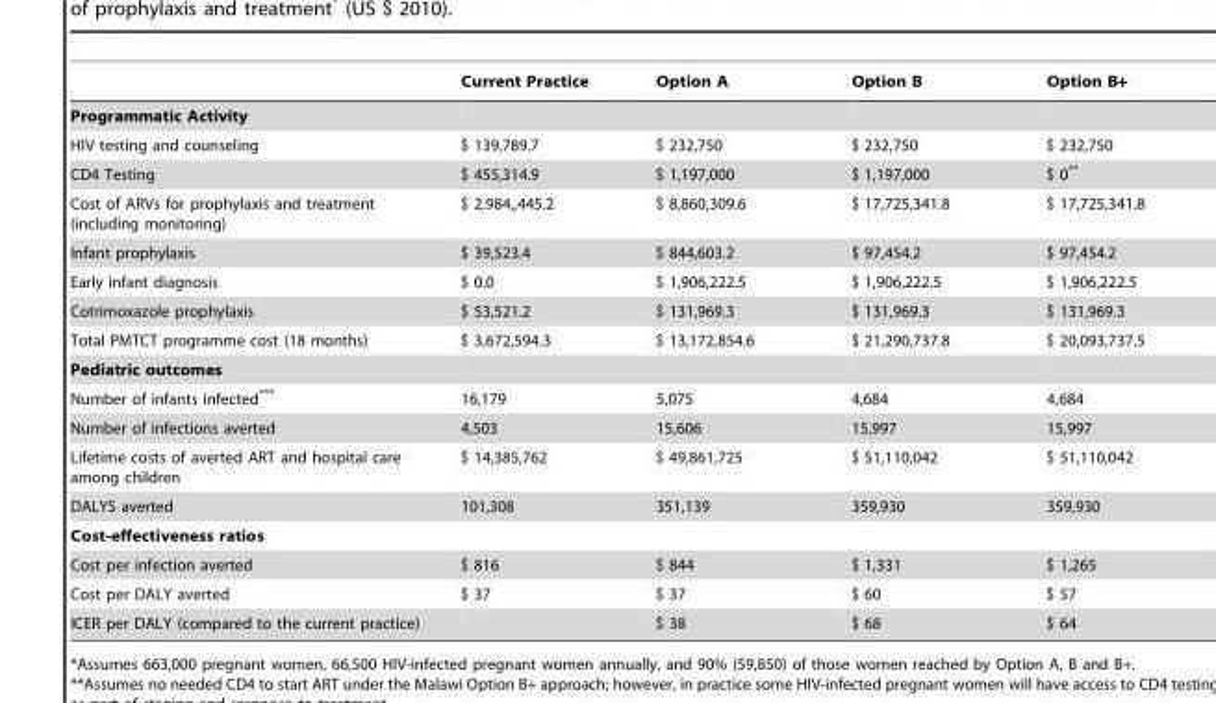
<table><thead><tr><td></td><td>Current Practice</td><td>Option A</td><td>Option B</td><td>Option B+</td></tr></thead><tbody><tr><td colspan="5">Programmatic Activity</td></tr><tr><td>HIV testing and counseling</td><td>$ 139,789.7</td><td>$ 232,750</td><td>$ 232,750</td><td>$ 232,750</td></tr><tr><td>CD4 Testing</td><td>$ 455,314.9</td><td>$ 1,197,000</td><td>$ 1,197,000</td><td>$ 0**</td></tr><tr><td>Cost of ARVs for prophylaxis and treatment (including monitoring)</td><td>$ 2,984,,445.2</td><td>$ 8,860,309.6</td><td>$ 17,725,341.8</td><td>$ 17,725,341.8</td></tr><tr><td>Infant prophylaxis</td><td>$ 39,523.4</td><td>$ 844,603.2</td><td>$ 97,454.2</td><td>$ 97,454.2</td></tr><tr><td>Early infant diagnosis</td><td>$ 0.0</td><td>$ 1,906,222.5</td><td>$ 1,906,222.5</td><td>$ 1,906,222.5</td></tr><tr><td>Cotrimoxazole prophylaxis</td><td>$ 53,521.2</td><td>$ 131,969.3</td><td>$ 131,969.3</td><td>$ 131,969.3</td></tr><tr><td>Total PMTCT programme cost (18 months)</td><td>$ 3,672,594.3</td><td>$ 13,172,854.6</td><td>$ 21,290,737.8</td><td>$ 20,093,737.5</td></tr><tr><td colspan="5">Pediatric outcomes</td></tr><tr><td>Number of infants infected***</td><td>16,179</td><td>5,075</td><td>4,684</td><td>4,684</td></tr><tr><td>Number of infections averted</td><td>4,503</td><td>15,606</td><td>15,997</td><td>15,997</td></tr><tr><td>Lifetime costs of averted ART and hospital care among children</td><td>$ 14,385,762</td><td>$ 49,861,725</td><td>$ 51,110,042</td><td>$ 51,110,042</td></tr><tr><td>DALYS averted</td><td>101,308</td><td>351,139</td><td>359,930</td><td>359,930</td></tr><tr><td colspan="5">Cost-effectiveness ratios</td></tr><tr><td>Cost per infection averted</td><td>$ 816</td><td>$ 844</td><td>$ 1,331</td><td>$ 1,265</td></tr><tr><td>Cost per DALY averted</td><td>$ 37</td><td>$ 37</td><td>$ 60</td><td>$ 57</td></tr><tr><td>ICER per DALY (compared to the current practice)</td><td></td><td>$ 38</td><td>$ 68</td><td>$ 64</td></tr></tbody></table>